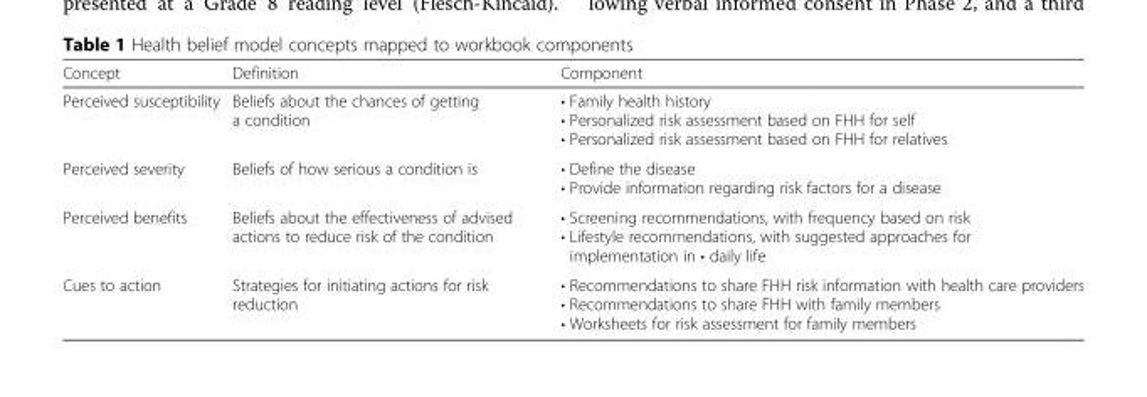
<table><thead><tr><td>Concept</td><td>Definition</td><td>Component</td></tr></thead><tbody><tr><td>Perceived susceptibility</td><td>Beliefs about the chances of getting a condition</td><td>• Family health history • Personalized risk assessment based on FHH for self • Personalized risk assessment based on FHH for relatives</td></tr><tr><td>Perceived severity</td><td>Beliefs of how serious a condition is</td><td>• Define the disease • Provide information regarding risk factors for a disease</td></tr><tr><td>Perceived benefits</td><td>Beliefs about the effectiveness of advised actions to reduce risk of the condition</td><td>• Screening recommendations, with frequency based on risk • Lifestyle recommendations, with suggested approaches for implementation in • daily life</td></tr><tr><td>Cues to action</td><td>Strategies for initiating actions for risk reduction</td><td>• Recommendations to share FHH risk information with health care providers • Recommendations to share FHH with family members • Worksheets for risk assessment for family members</td></tr></tbody></table>